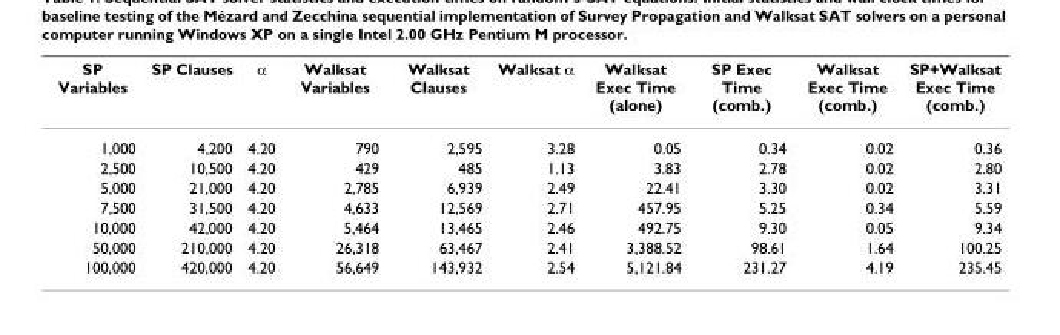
<table><thead><tr><td>SP Variables</td><td>SP Clauses</td><td>α</td><td>Walksat Variables</td><td>Walksat Clauses</td><td>Walksat α</td><td>Walksat Exec Time (alone)</td><td>SP Exec Time (comb.)</td><td>Walksat Exec Time (comb.)</td><td>SP+Walksat Exec Time (comb.)</td></tr></thead><tbody><tr><td>1,000</td><td>4,200</td><td>4.20</td><td>790</td><td>2,595</td><td>3.28</td><td>0.05</td><td>0.34</td><td>0.02</td><td>0.36</td></tr><tr><td>2,500</td><td>10,500</td><td>4.20</td><td>429</td><td>485</td><td>1.13</td><td>3.83</td><td>2.78</td><td>0.02</td><td>2.80</td></tr><tr><td>5,000</td><td>21,000</td><td>4.20</td><td>2,785</td><td>6,939</td><td>2.49</td><td>22.41</td><td>3.30</td><td>0.02</td><td>3.31</td></tr><tr><td>7,500</td><td>31,500</td><td>4.20</td><td>4,633</td><td>12,569</td><td>2.71</td><td>457.95</td><td>5.25</td><td>0.34</td><td>5.59</td></tr><tr><td>10,000</td><td>42,000</td><td>4.20</td><td>5,464</td><td>13,465</td><td>2.46</td><td>492.75</td><td>9.30</td><td>0.05</td><td>9.34</td></tr><tr><td>50,000</td><td>210,000</td><td>4.20</td><td>26,318</td><td>63,467</td><td>2.41</td><td>3,388.52</td><td>98.61</td><td>1.64</td><td>100.25</td></tr><tr><td>100,000</td><td>420,000</td><td>4.20</td><td>56,649</td><td>143,932</td><td>2.54</td><td>5,121.84</td><td>231.27</td><td>4.19</td><td>235.45</td></tr></tbody></table>